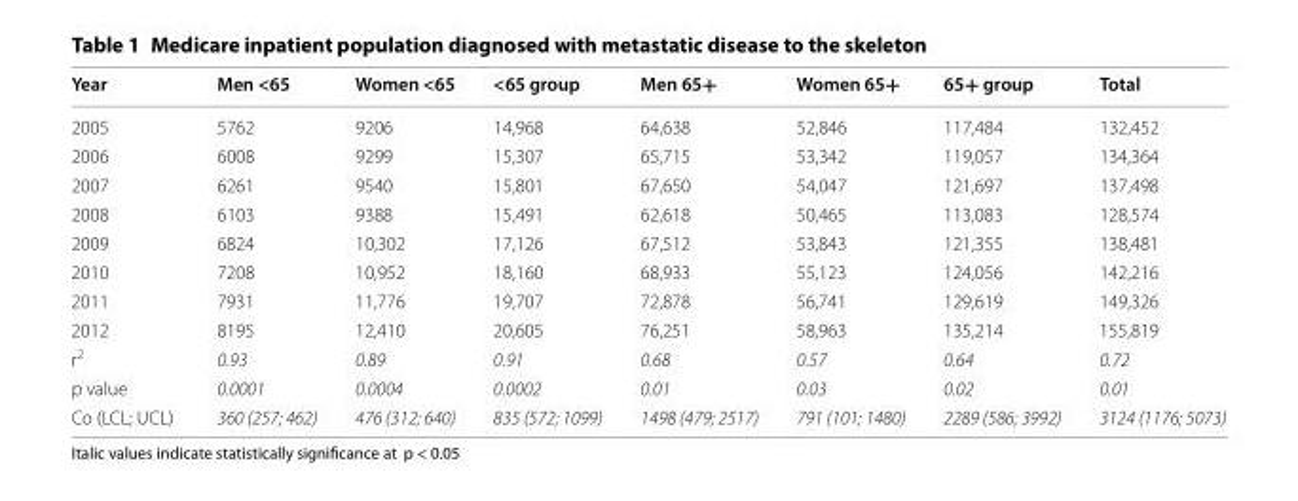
<table><thead><tr><td>Year</td><td>Men &lt;65</td><td>Women &lt;65</td><td>&lt;65 group</td><td>Men 65+</td><td>Women 65+</td><td>65+ group</td><td>Total</td></tr></thead><tbody><tr><td>2005</td><td>5762</td><td>9206</td><td>14,968</td><td>64,638</td><td>52,846</td><td>117,484</td><td>132,452</td></tr><tr><td>2006</td><td>6008</td><td>9299</td><td>15,307</td><td>65,715</td><td>53,342</td><td>119,057</td><td>134,364</td></tr><tr><td>2007</td><td>6261</td><td>9540</td><td>15,801</td><td>67,650</td><td>54,047</td><td>121,697</td><td>137,498</td></tr><tr><td>2008</td><td>6103</td><td>9388</td><td>15,491</td><td>62,618</td><td>50,465</td><td>113,083</td><td>128,574</td></tr><tr><td>2009</td><td>6824</td><td>10,302</td><td>17,126</td><td>67,512</td><td>53,843</td><td>121,355</td><td>138,481</td></tr><tr><td>2010</td><td>7208</td><td>10,952</td><td>18,160</td><td>68,933</td><td>55,123</td><td>124,056</td><td>142,216</td></tr><tr><td>2011</td><td>7931</td><td>11,776</td><td>19,707</td><td>72,878</td><td>56,741</td><td>129,619</td><td>149,326</td></tr><tr><td>2012</td><td>8195</td><td>12,410</td><td>20,605</td><td>76,251</td><td>58,963</td><td>135,214</td><td>155,819</td></tr><tr><td>r<sup>2</sup></td><td>0.93</td><td>0.89</td><td>0.91</td><td>0.68</td><td>0.57</td><td>0.64</td><td>0.72</td></tr><tr><td>p value</td><td>0.0001</td><td>0.0004</td><td>0.0002</td><td>0.01</td><td>0.03</td><td>0.02</td><td>0.01</td></tr><tr><td>Co (LCL; UCL)</td><td>360 (257; 462)</td><td>476 (312; 640)</td><td>835 (572; 1099)</td><td>1498 (479; 2517)</td><td>791 (101; 1480)</td><td>2289 (586; 3992)</td><td>3124 (1176; 5073)</td></tr></tbody></table>